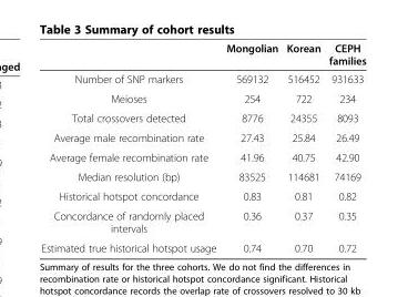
<table><thead><tr><td></td><td>Mongolian</td><td>Korean</td><td>CEPH families</td></tr></thead><tbody><tr><td>Number of SNP markers</td><td>569132</td><td>516452</td><td>931633</td></tr><tr><td>Meioses</td><td>254</td><td>722</td><td>234</td></tr><tr><td>Total crossovers detected</td><td>8776</td><td>24355</td><td>8093</td></tr><tr><td>Average male recombination rate</td><td>27.43</td><td>25.84</td><td>26.49</td></tr><tr><td>Average female recombination rate</td><td>41.96</td><td>40.75</td><td>42.90</td></tr><tr><td>Median resolution (bp)</td><td>83525</td><td>114681</td><td>74169</td></tr><tr><td>Historical hotspot concordance</td><td>0.83</td><td>0.81</td><td>0.82</td></tr><tr><td>Concordance of randomly placed intervals</td><td>0.36</td><td>0.37</td><td>0.35</td></tr><tr><td>Estimated true historical hotspot usage</td><td>0.74</td><td>0.70</td><td>0.72</td></tr></tbody></table>